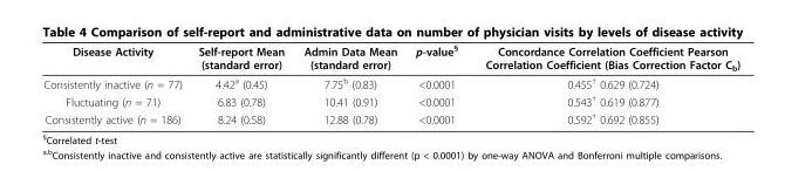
<table><thead><tr><td>Disease Activity</td><td>Self-report Mean (standard error)</td><td>Admin Data Mean (standard error)</td><td>p-value<sup>§</sup></td><td>Concordance Correlation Coefficient Pearson Correlation Coefficient (Bias Correction Factor C<sub>b</sub>)</td></tr></thead><tbody><tr><td>Consistently inactive (n = 77)</td><td>4.42<sup>a</sup> (0.45)</td><td>7.75<sup>b</sup> (0.83)</td><td>&lt;0.0001</td><td>0.455<sup>†</sup> 0.629 (0.724)</td></tr><tr><td>Fluctuating (n = 71)</td><td>6.83 (0.78)</td><td>10.41 (0.91)</td><td>&lt;0.0001</td><td>0.543<sup>†</sup> 0.619 (0.877)</td></tr><tr><td>Consistently active (n = 186)</td><td>8.24 (0.58)</td><td>12.88 (0.78)</td><td>&lt;0.0001</td><td>0.592<sup>†</sup> 0.692 (0.855)</td></tr></tbody></table>